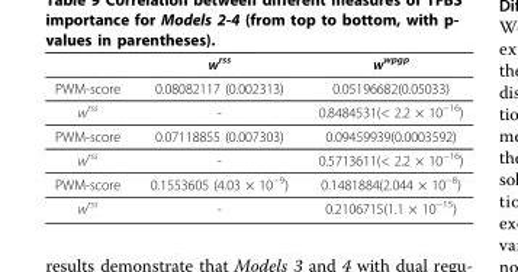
<table><thead><tr><td></td><td>w<sup>rss</sup></td><td>w<sup>wpgp</sup></td></tr></thead><tbody><tr><td>PWM-score</td><td>0.08082117 (0.002313)</td><td>0.05196682(0.05033)</td></tr><tr><td>w<sup>rss</sup></td><td>-</td><td>0.8484531(&lt; 2.2 × 10<sup>−16</sup>)</td></tr><tr><td>PWM-score</td><td>0.07118855 (0.007303)</td><td>0.09459939(0.0003592)</td></tr><tr><td>w<sup>rss</sup></td><td>-</td><td>0.5713611(&lt; 2.2 × 10<sup>−16</sup>)</td></tr><tr><td>PWM-score</td><td>0.1553605 (4.03 × 10<sup>−9</sup>)</td><td>0.1481884(2.044 × 10<sup>−8</sup>)</td></tr><tr><td>w<sup>rss</sup></td><td>-</td><td>0.2106715(1.1 × 10<sup>−15</sup>)</td></tr></tbody></table>